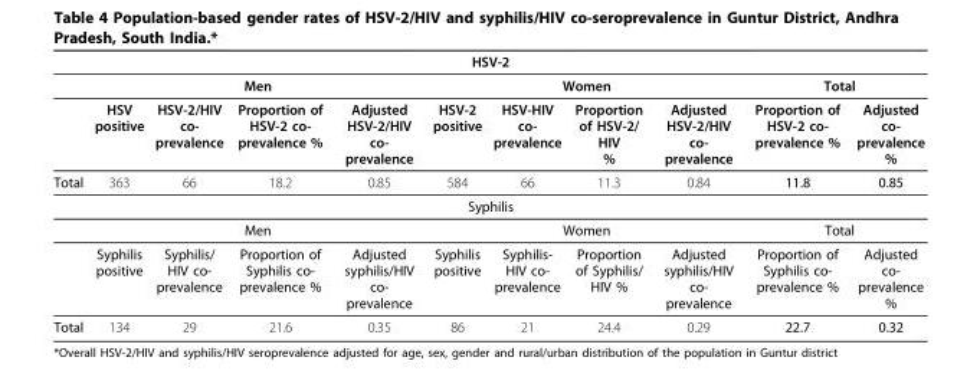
<table><thead><tr><td colspan="11">HSV-2</td></tr><tr><td rowspan="2"></td><td colspan="4">Men</td><td colspan="4">Women</td><td colspan="2">Total</td></tr><tr><td>HSV positive</td><td>HSV-2/HIV co- prevalence</td><td>Proportion of HSV-2 co- prevalence %</td><td>Adjusted HSV-2/HIV co- prevalence</td><td>HSV-2 positive</td><td>HSV-HIV co- prevalence</td><td>Proportion of HSV-2/ HIV %</td><td>Adjusted HSV-2/HIV co- prevalence</td><td>Proportion of HSV-2 co- prevalence %</td><td>Adjusted co- prevalence %</td></tr></thead><tbody><tr><td>Total</td><td>363</td><td>66</td><td>18.2</td><td>0.85</td><td>584</td><td>66</td><td>11.3</td><td>0.84</td><td>11.8</td><td>0.85</td></tr><tr><td colspan="11">Syphilis</td></tr><tr><td></td><td colspan="4">Men</td><td colspan="4">Women</td><td colspan="2">Total</td></tr><tr><td></td><td>Syphilis positive</td><td>Syphilis/ HIV co- prevalence</td><td>Proportion of Syphilis co- prevalence %</td><td>Adjusted syphilis/HIV co- prevalence</td><td>Syphilis positive</td><td>Syphilis- HIV co- prevalence</td><td>Proportion of Syphilis/ HIV %</td><td>Adjusted syphilis/HIV co- prevalence</td><td>Proportion of Syphilis co- prevalence %</td><td>Adjusted co- prevalence %</td></tr><tr><td>Total</td><td>134</td><td>29</td><td>21.6</td><td>0.35</td><td>86</td><td>21</td><td>24.4</td><td>0.29</td><td>22.7</td><td>0.32</td></tr></tbody></table>